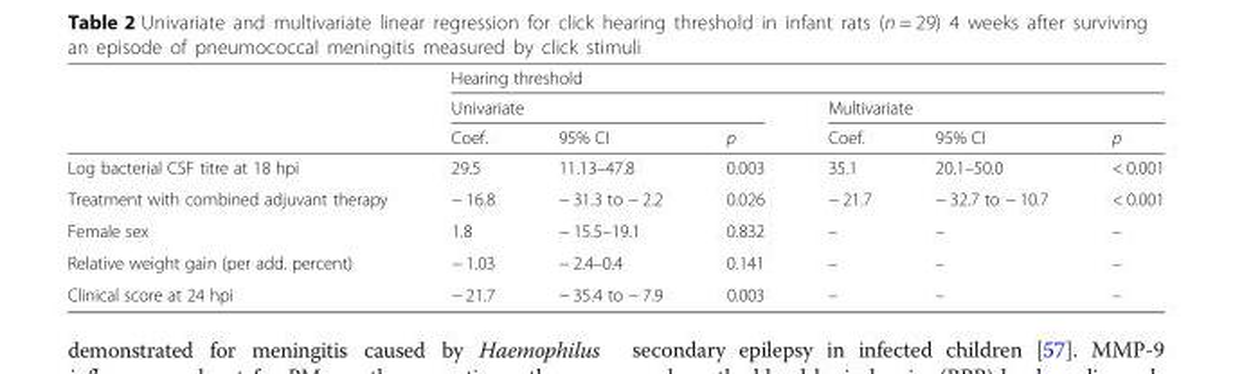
<table><thead><tr><td rowspan="3"></td><td colspan="6">Hearing threshold</td></tr><tr><td colspan="3">Univariate</td><td colspan="3">Multivariate</td></tr><tr><td>Coef.</td><td>95% CI</td><td>p</td><td>Coef.</td><td>95% CI</td><td>p</td></tr></thead><tbody><tr><td>Log bacterial CSF titre at 18 hpi</td><td>29.5</td><td>11.13–47.8</td><td>0.003</td><td>35.1</td><td>20.1–50.0</td><td>&lt; 0.001</td></tr><tr><td>Treatment with combined adjuvant therapy</td><td>− 16.8</td><td>− 31.3 to − 2.2</td><td>0.026</td><td>− 21.7</td><td>− 32.7 to − 10.7</td><td>&lt; 0.001</td></tr><tr><td>Female sex</td><td>1.8</td><td>− 15.5–19.1</td><td>0.832</td><td>–</td><td>–</td><td>–</td></tr><tr><td>Relative weight gain (per add. percent)</td><td>− 1.03</td><td>− 2.4–0.4</td><td>0.141</td><td>–</td><td>–</td><td>–</td></tr><tr><td>Clinical score at 24 hpi</td><td>− 21.7</td><td>− 35.4 to − 7.9</td><td>0.003</td><td>–</td><td>–</td><td>–</td></tr></tbody></table>